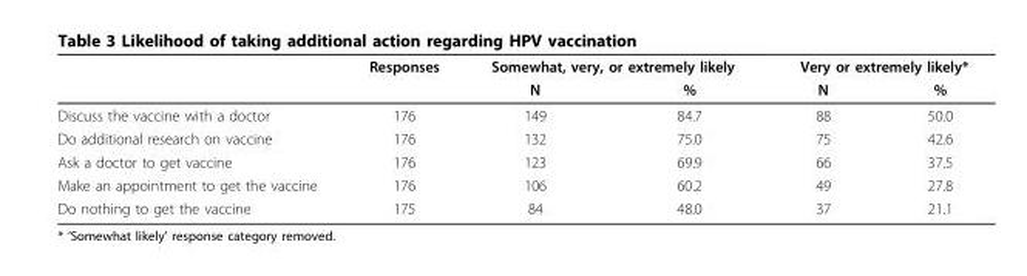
<table><thead><tr><td rowspan="2"></td><td rowspan="2">Responses</td><td colspan="2">Somewhat, very, or extremely likely</td><td colspan="2">Very or extremely likely*</td></tr><tr><td>N</td><td>%</td><td>N</td><td>%</td></tr></thead><tbody><tr><td>Discuss the vaccine with a doctor</td><td>176</td><td>149</td><td>84.7</td><td>88</td><td>50.0</td></tr><tr><td>Do additional research on vaccine</td><td>176</td><td>132</td><td>75.0</td><td>75</td><td>42.6</td></tr><tr><td>Ask a doctor to get vaccine</td><td>176</td><td>123</td><td>69.9</td><td>66</td><td>37.5</td></tr><tr><td>Make an appointment to get the vaccine</td><td>176</td><td>106</td><td>60.2</td><td>49</td><td>27.8</td></tr><tr><td>Do nothing to get the vaccine</td><td>175</td><td>84</td><td>48.0</td><td>37</td><td>21.1</td></tr></tbody></table>